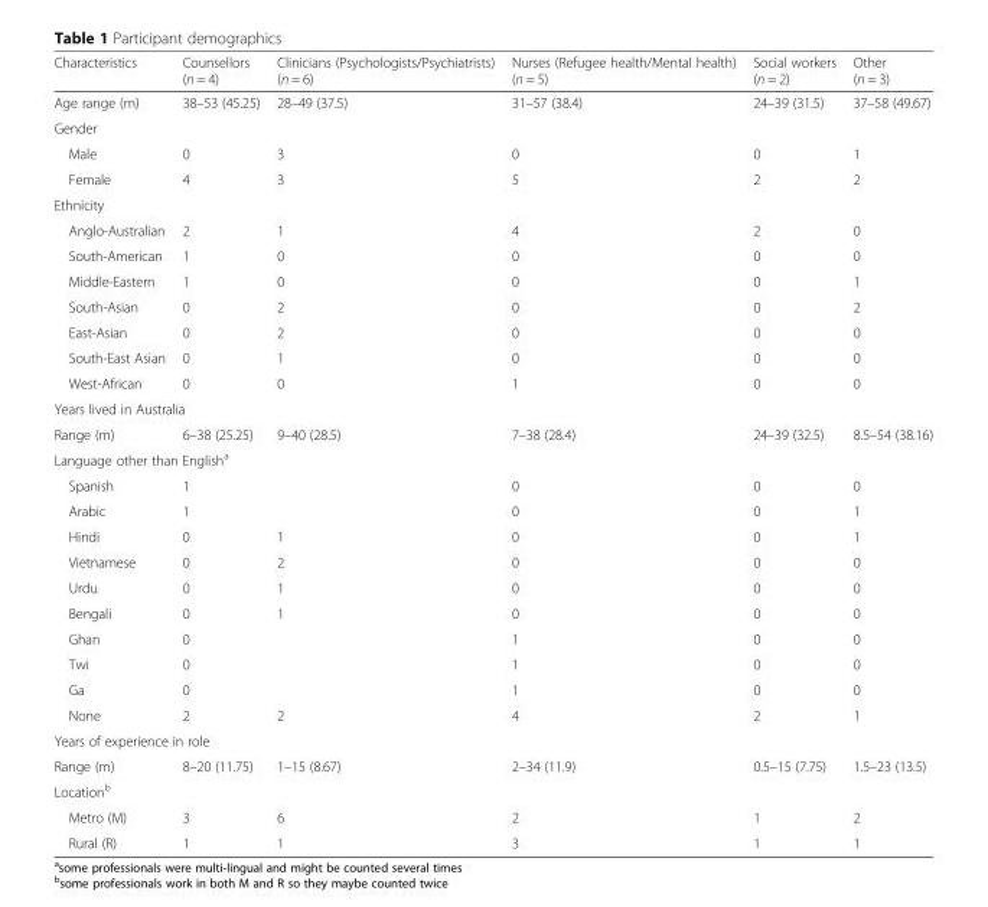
<table><thead><tr><td>Characteristics</td><td>Counsellors (n = 4)</td><td>Clinicians (Psychologists/Psychiatrists) (n = 6)</td><td>Nurses (Refugee health/Mental health) (n = 5)</td><td>Social workers (n = 2)</td><td>Other (n = 3)</td></tr></thead><tbody><tr><td>Age range (m)</td><td>38–53 (45.25)</td><td>28–49 (37.5)</td><td>31–57 (38.4)</td><td>24–39 (31.5)</td><td>37–58 (49.67)</td></tr><tr><td colspan="6">Gender</td></tr><tr><td>Male</td><td>0</td><td>3</td><td>0</td><td>0</td><td>1</td></tr><tr><td>Female</td><td>4</td><td>3</td><td>5</td><td>2</td><td>2</td></tr><tr><td colspan="6">Ethnicity</td></tr><tr><td>Anglo-Australian</td><td>2</td><td>1</td><td>4</td><td>2</td><td>0</td></tr><tr><td>South-American</td><td>1</td><td>0</td><td>0</td><td>0</td><td>0</td></tr><tr><td>Middle-Eastern</td><td>1</td><td>0</td><td>0</td><td>0</td><td>1</td></tr><tr><td>South-Asian</td><td>0</td><td>2</td><td>0</td><td>0</td><td>2</td></tr><tr><td>East-Asian</td><td>0</td><td>2</td><td>0</td><td>0</td><td>0</td></tr><tr><td>South-East Asian</td><td>0</td><td>1</td><td>0</td><td>0</td><td>0</td></tr><tr><td>West-African</td><td>0</td><td>0</td><td>1</td><td>0</td><td>0</td></tr><tr><td colspan="6">Years lived in Australia</td></tr><tr><td>Range (m)</td><td>6–38 (25.25)</td><td>9–40 (28.5)</td><td>7–38 (28.4)</td><td>24–39 (32.5)</td><td>8.5–54 (38.16)</td></tr><tr><td colspan="6">Language other than English<sup>a</sup></td></tr><tr><td>Spanish</td><td>1</td><td></td><td>0</td><td>0</td><td>0</td></tr><tr><td>Arabic</td><td>1</td><td></td><td>0</td><td>0</td><td>1</td></tr><tr><td>Hindi</td><td>0</td><td>1</td><td>0</td><td>0</td><td>1</td></tr><tr><td>Vietnamese</td><td>0</td><td>2</td><td>0</td><td>0</td><td>0</td></tr><tr><td>Urdu</td><td>0</td><td>1</td><td>0</td><td>0</td><td>0</td></tr><tr><td>Bengali</td><td>0</td><td>1</td><td>0</td><td>0</td><td>0</td></tr><tr><td>Ghan</td><td>0</td><td></td><td>1</td><td>0</td><td>0</td></tr><tr><td>Twi</td><td>0</td><td></td><td>1</td><td>0</td><td>0</td></tr><tr><td>Ga</td><td>0</td><td></td><td>1</td><td>0</td><td>0</td></tr><tr><td>None</td><td>2</td><td>2</td><td>4</td><td>2</td><td>1</td></tr><tr><td colspan="6">Years of experience in role</td></tr><tr><td>Range (m)</td><td>8–20 (11.75)</td><td>1–15 (8.67)</td><td>2–34 (11.9)</td><td>0.5–15 (7.75)</td><td>1.5–23 (13.5)</td></tr><tr><td colspan="6">Location<sup>b</sup></td></tr><tr><td>Metro (M)</td><td>3</td><td>6</td><td>2</td><td>1</td><td>2</td></tr><tr><td>Rural (R)</td><td>1</td><td>1</td><td>3</td><td>1</td><td>1</td></tr></tbody></table>